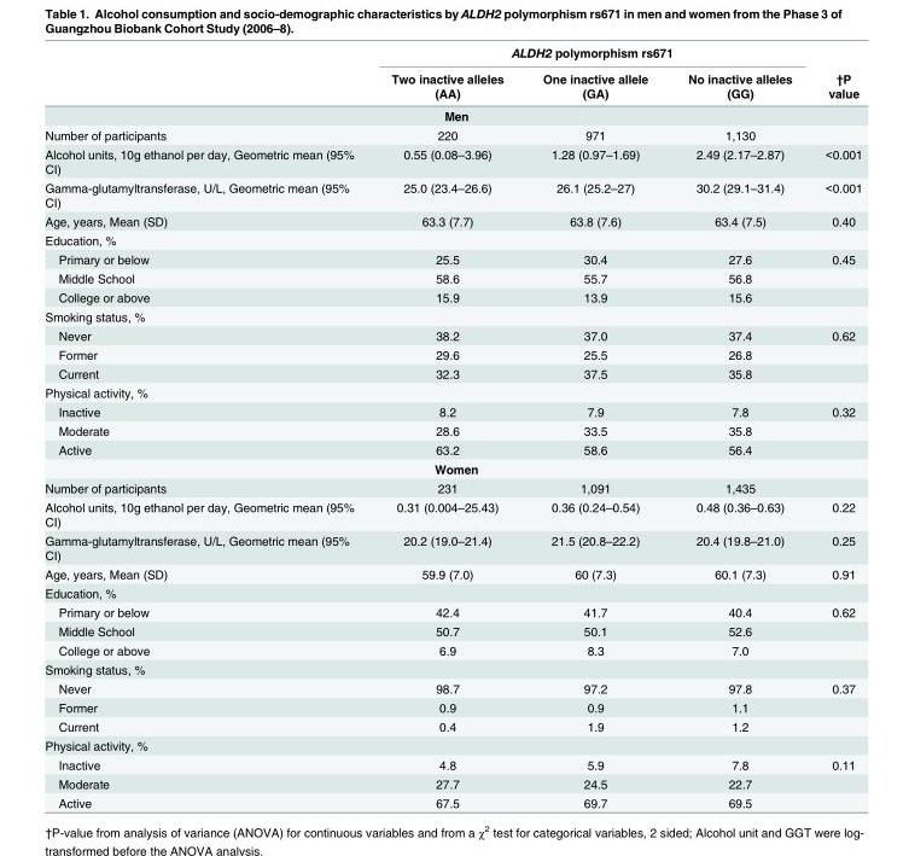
<table><thead><tr><td rowspan="2"></td><td colspan="3">ALDH2 polymorphism rs671</td><td rowspan="2">†P value</td></tr><tr><td>Two inactive alleles (AA)</td><td>One inactive allele (GA)</td><td>No inactive alleles (GG)</td></tr></thead><tbody><tr><td colspan="5">Men</td></tr><tr><td>Number of participants</td><td>220</td><td>971</td><td>1,130</td><td></td></tr><tr><td>Alcohol units, 10g ethanol per day, Geometric mean (95% CI)</td><td>0.55 (0.08–3.96)</td><td>1.28 (0.97–1.69)</td><td>2.49 (2.17–2.87)</td><td>&lt;0.001</td></tr><tr><td>Gamma-glutamyltransferase, U/L, Geometric mean (95% CI)</td><td>25.0 (23.4–26.6)</td><td>26.1 (25.2–27)</td><td>30.2 (29.1–31.4)</td><td>&lt;0.001</td></tr><tr><td>Age, years, Mean (SD)</td><td>63.3 (7.7)</td><td>63.8 (7.6)</td><td>63.4 (7.5)</td><td>0.40</td></tr><tr><td colspan="5">Education, %</td></tr><tr><td>Primary or below</td><td>25.5</td><td>30.4</td><td>27.6</td><td>0.45</td></tr><tr><td>Middle School</td><td>58.6</td><td>55.7</td><td>56.8</td><td></td></tr><tr><td>College or above</td><td>15.9</td><td>13.9</td><td>15.6</td><td></td></tr><tr><td colspan="5">Smoking status, %</td></tr><tr><td>Never</td><td>38.2</td><td>37.0</td><td>37.4</td><td>0.62</td></tr><tr><td>Former</td><td>29.6</td><td>25.5</td><td>26.8</td><td></td></tr><tr><td>Current</td><td>32.3</td><td>37.5</td><td>35.8</td><td></td></tr><tr><td colspan="5">Physical activity, %</td></tr><tr><td>Inactive</td><td>8.2</td><td>7.9</td><td>7.8</td><td>0.32</td></tr><tr><td>Moderate</td><td>28.6</td><td>33.5</td><td>35.8</td><td></td></tr><tr><td>Active</td><td>63.2</td><td>58.6</td><td>56.4</td><td></td></tr><tr><td colspan="5">Women</td></tr><tr><td>Number of participants</td><td>231</td><td>1,091</td><td>1,435</td><td></td></tr><tr><td>Alcohol units, 10g ethanol per day, Geometric mean (95% CI)</td><td>0.31 (0.004–25.43)</td><td>0.36 (0.24–0.54)</td><td>0.48 (0.36–0.63)</td><td>0.22</td></tr><tr><td>Gamma-glutamyltransferase, U/L, Geometric mean (95% CI)</td><td>20.2 (19.0–21.4)</td><td>21.5 (20.8–22.2)</td><td>20.4 (19.8–21.0)</td><td>0.25</td></tr><tr><td>Age, years, Mean (SD)</td><td>59.9 (7.0)</td><td>60 (7.3)</td><td>60.1 (7.3)</td><td>0.91</td></tr><tr><td colspan="5">Education, %</td></tr><tr><td>Primary or below</td><td>42.4</td><td>41.7</td><td>40.4</td><td>0.62</td></tr><tr><td>Middle School</td><td>50.7</td><td>50.1</td><td>52.6</td><td></td></tr><tr><td>College or above</td><td>6.9</td><td>8.3</td><td>7.0</td><td></td></tr><tr><td colspan="5">Smoking status, %</td></tr><tr><td>Never</td><td>98.7</td><td>97.2</td><td>97.8</td><td>0.37</td></tr><tr><td>Former</td><td>0.9</td><td>0.9</td><td>1.1</td><td></td></tr><tr><td>Current</td><td>0.4</td><td>1.9</td><td>1.2</td><td></td></tr><tr><td colspan="5">Physical activity, %</td></tr><tr><td>Inactive</td><td>4.8</td><td>5.9</td><td>7.8</td><td>0.11</td></tr><tr><td>Moderate</td><td>27.7</td><td>24.5</td><td>22.7</td><td></td></tr><tr><td>Active</td><td>67.5</td><td>69.7</td><td>69.5</td><td></td></tr></tbody></table>